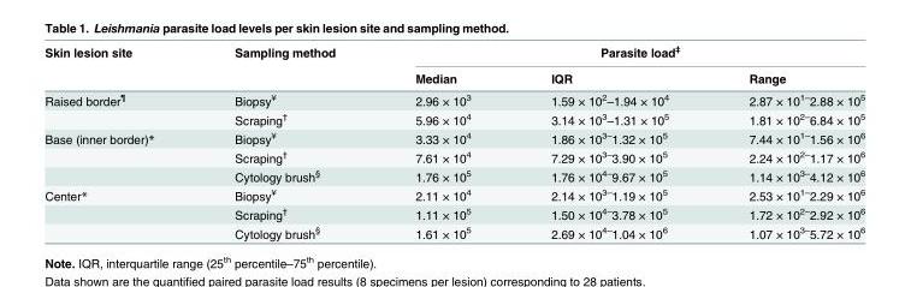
<table><thead><tr><td rowspan="2">Skin lesion site</td><td rowspan="2">Sampling method</td><td colspan="3">Parasite load<sup>‡</sup></td></tr><tr><td>Median</td><td>IQR</td><td>Range</td></tr></thead><tbody><tr><td rowspan="2">Raised border<sup>¶</sup></td><td>Biopsy<sup>¥</sup></td><td>2.96 × 10<sup>3</sup></td><td>1.59 × 10<sup>2</sup>–1.94 × 10<sup>4</sup></td><td>2.87 × 10<sup>1–</sup>2.88 × 10<sup>5</sup></td></tr><tr><td>Scraping<sup>†</sup></td><td>5.96 × 10<sup>4</sup></td><td>3.14 × 10<sup>3</sup>–1.31 × 10<sup>5</sup></td><td>1.81 × 10<sup>2–</sup>6.84 × 10<sup>5</sup></td></tr><tr><td rowspan="3">Base (inner border)*</td><td>Biopsy<sup>¥</sup></td><td>3.33 × 10<sup>4</sup></td><td>1.86 × 10<sup>3–</sup>1.32 × 10<sup>5</sup></td><td>7.44 × 10<sup>1–</sup>1.56 × 10<sup>6</sup></td></tr><tr><td>Scraping<sup>†</sup></td><td>7.61 × 10<sup>4</sup></td><td>7.29 × 10<sup>3–</sup>3.90 × 10<sup>5</sup></td><td>2.24 × 10<sup>2–</sup>1.17 × 10<sup>6</sup></td></tr><tr><td>Cytology brush<sup>§</sup></td><td>1.76 × 10<sup>5</sup></td><td>1.76 × 10<sup>4–</sup>9.67 × 10<sup>5</sup></td><td>1.14 × 10<sup>3–</sup>4.12 × 10<sup>6</sup></td></tr><tr><td rowspan="3">Center*</td><td>Biopsy<sup>¥</sup></td><td>2.11 × 10<sup>4</sup></td><td>2.14 × 10<sup>3–</sup>1.19 × 10<sup>5</sup></td><td>2.53 × 10<sup>1–</sup>2.29 × 10<sup>6</sup></td></tr><tr><td>Scraping<sup>†</sup></td><td>1.11 × 10<sup>5</sup></td><td>1.50 × 10<sup>4–</sup>3.78 × 10<sup>5</sup></td><td>1.72 × 10<sup>2–</sup>2.92 × 10<sup>6</sup></td></tr><tr><td>Cytology brush<sup>§</sup></td><td>1.61 × 10<sup>5</sup></td><td>2.69 × 10<sup>4–</sup>1.04 × 10<sup>6</sup></td><td>1.07 × 10<sup>3–</sup>5.72 × 10<sup>6</sup></td></tr></tbody></table>